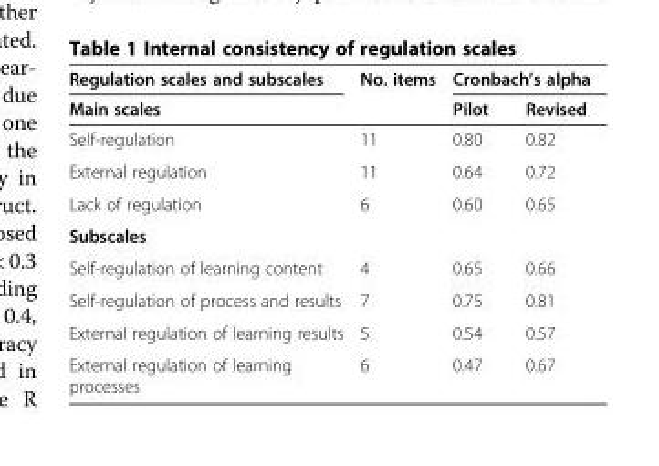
<table><thead><tr><td rowspan="2">Regulation scales and subscales Main scales</td><td rowspan="2">No. items</td><td colspan="2">Cronbach’s alpha</td></tr><tr><td>Pilot</td><td>Revised</td></tr></thead><tbody><tr><td>Self-regulation</td><td>11</td><td>0.80</td><td>0.82</td></tr><tr><td>External regulation</td><td>11</td><td>0.64</td><td>0.72</td></tr><tr><td>Lack of regulation</td><td>6</td><td>0.60</td><td>0.65</td></tr><tr><td colspan="4">Subscales</td></tr><tr><td>Self-regulation of learning content</td><td>4</td><td>0.65</td><td>0.66</td></tr><tr><td>Self-regulation of process and results</td><td>7</td><td>0.75</td><td>0.81</td></tr><tr><td>External regulation of learning results</td><td>5</td><td>0.54</td><td>0.57</td></tr><tr><td>External regulation of learning processes</td><td>6</td><td>0.47</td><td>0.67</td></tr></tbody></table>